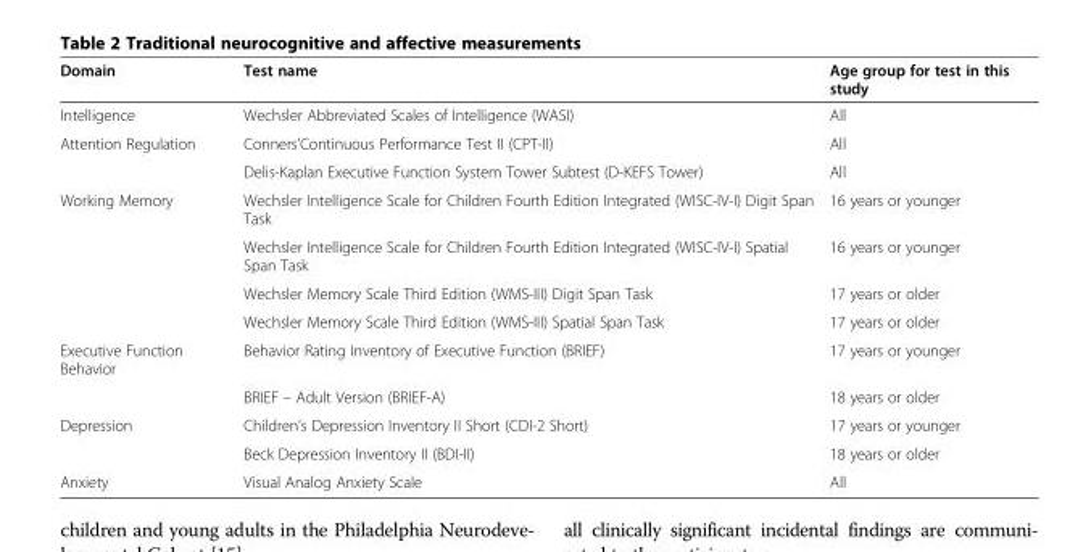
<table><thead><tr><td>Domain</td><td>Test name</td><td>Age group for test in this study</td></tr></thead><tbody><tr><td>Intelligence</td><td>Wechsler Abbreviated Scales of Intelligence (WASI)</td><td>All</td></tr><tr><td rowspan="2">Attention Regulation</td><td>Conners’Continuous Performance Test II (CPT-II)</td><td>All</td></tr><tr><td>Delis-Kaplan Executive Function System Tower Subtest (D-KEFS Tower)</td><td>All</td></tr><tr><td rowspan="4">Working Memory</td><td>Wechsler Intelligence Scale for Children Fourth Edition Integrated (WISC-IV-I) Digit Span Task</td><td>16 years or younger</td></tr><tr><td>Wechsler Intelligence Scale for Children Fourth Edition Integrated (WISC-IV-I) Spatial Span Task</td><td>16 years or younger</td></tr><tr><td>Wechsler Memory Scale Third Edition (WMS-III) Digit Span Task</td><td>17 years or older</td></tr><tr><td>Wechsler Memory Scale Third Edition (WMS-III) Spatial Span Task</td><td>17 years or older</td></tr><tr><td rowspan="2">Executive Function Behavior</td><td>Behavior Rating Inventory of Executive Function (BRIEF)</td><td>17 years or younger</td></tr><tr><td>BRIEF – Adult Version (BRIEF-A)</td><td>18 years or older</td></tr><tr><td rowspan="2">Depression</td><td>Children’s Depression Inventory II Short (CDI-2 Short)</td><td>17 years or younger</td></tr><tr><td>Beck Depression Inventory II (BDI-II)</td><td>18 years or older</td></tr><tr><td>Anxiety</td><td>Visual Analog Anxiety Scale</td><td>All</td></tr></tbody></table>